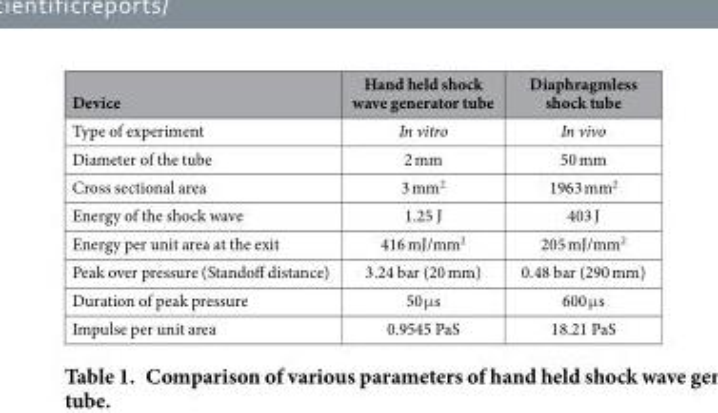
<table><thead><tr><td>Device</td><td>Hand held shock wave generator tube</td><td>Diaphragmless shock tube</td></tr></thead><tbody><tr><td>Type of experiment</td><td>In vitro</td><td>In vivo</td></tr><tr><td>Diameter of the tube</td><td>2 mm</td><td>50 mm</td></tr><tr><td>Cross sectional area</td><td>3 mm<sup>2</sup></td><td>1963 mm<sup>2</sup></td></tr><tr><td>Energy of the shock wave</td><td>1.25 J</td><td>403 J</td></tr><tr><td>Energy per unit area at the exit</td><td>416 mJ/mm<sup>2</sup></td><td>205 mJ/mm<sup>2</sup></td></tr><tr><td>Peak over pressure (Standoff distance)</td><td>3.24 bar (20 mm)</td><td>0.48 bar (290 mm)</td></tr><tr><td>Duration of peak pressure</td><td>50 μ s</td><td>600 μ s</td></tr><tr><td>Impulse per unit area</td><td>0.9545 PaS</td><td>18.21 PaS</td></tr></tbody></table>